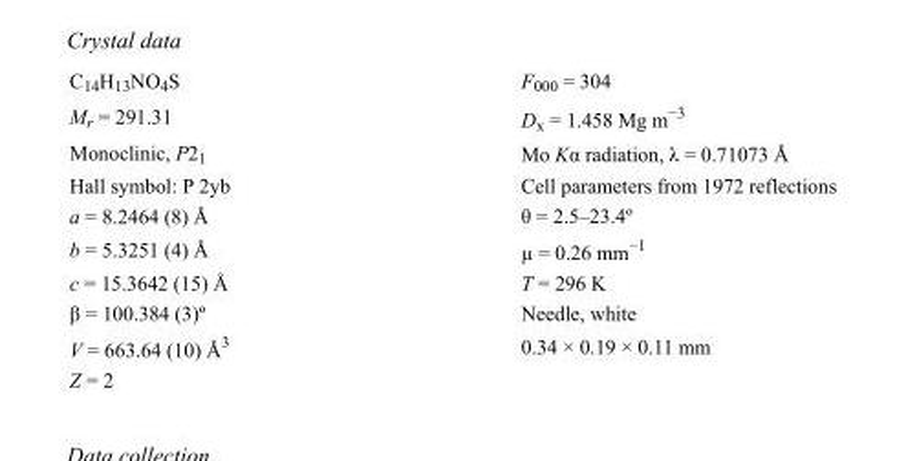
<table><tbody><tr><td>C<sub>14</sub>H<sub>13</sub>NO<sub>4</sub>S</td><td>F000 = 304</td></tr><tr><td>M<sub>r</sub> = 291.31</td><td>D<sub>x</sub> = 1.458 Mg m<sup>−3</sup></td></tr><tr><td>Monoclinic, P2<sub>1</sub></td><td>Mo Kα radiation, λ = 0.71073 Å</td></tr><tr><td>Hall symbol: P 2yb</td><td>Cell parameters from 1972 reflections</td></tr><tr><td>a = 8.2464 (8) Å</td><td>θ = 2.5–23.4º</td></tr><tr><td>b = 5.3251 (4) Å</td><td>µ = 0.26 mm<sup>−1</sup></td></tr><tr><td>c = 15.3642 (15) Å</td><td>T = 296 K</td></tr><tr><td>β = 100.384 (3)º</td><td>Needle, white</td></tr><tr><td>V = 663.64 (10) Å<sup>3</sup></td><td>0.34 × 0.19 × 0.11 mm</td></tr><tr><td>Z = 2</td><td></td></tr></tbody></table>